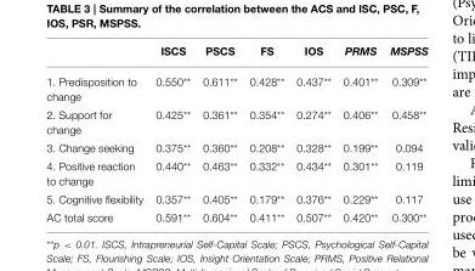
<table><thead><tr><td></td><td>ISCS</td><td>PSCS</td><td>FS</td><td>IOS</td><td>PRMS</td><td>MSPSS</td></tr></thead><tbody><tr><td>1. Predisposition to change</td><td>0.550**</td><td>0.611**</td><td>0.428**</td><td>0.437**</td><td>0.401**</td><td>0.309**</td></tr><tr><td>2. Support for change</td><td>0.425**</td><td>0.361**</td><td>0.354**</td><td>0.274**</td><td>0.406**</td><td>0.458**</td></tr><tr><td>3. Change seeking</td><td>0.375**</td><td>0.360**</td><td>0.208**</td><td>0.328**</td><td>0.199**</td><td>0.094</td></tr><tr><td>4. Positive reaction to change</td><td>0.440**</td><td>0.463**</td><td>0.332**</td><td>0.434**</td><td>0.301**</td><td>0.119</td></tr><tr><td>5. Cognitive flexibility</td><td>0.357**</td><td>0.405**</td><td>0.179**</td><td>0.376**</td><td>0.229**</td><td>0.117</td></tr><tr><td>AC total score</td><td>0.591**</td><td>0.604**</td><td>0.411**</td><td>0.507**</td><td>0.420**</td><td>0.300**</td></tr></tbody></table>